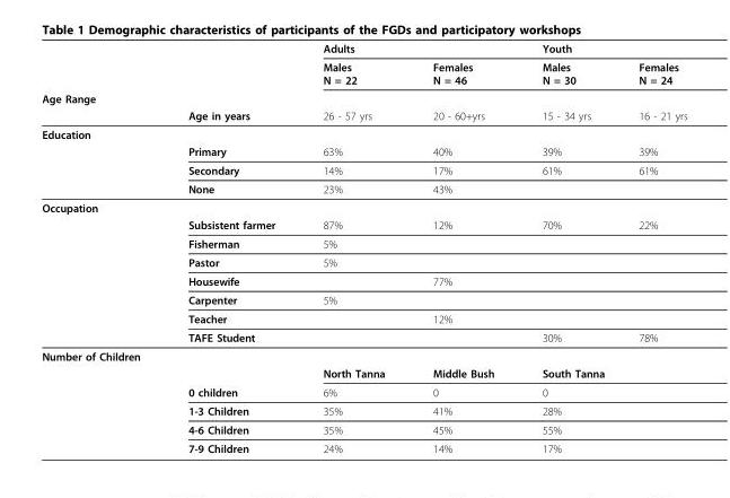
<table><thead><tr><td rowspan="4">Age Range</td><td rowspan="4">Age in years</td><td colspan="2">Adults</td><td colspan="2">Youth</td></tr><tr><td rowspan="3">Males N = 22 26 - 57 yrs</td><td rowspan="3">Females N = 46 20 - 60+yrs</td><td rowspan="3">Males N = 30 15 - 34 yrs</td><td rowspan="3">Females N = 24 16 - 21 yrs</td></tr><tr></tr><tr></tr></thead><tbody><tr><td colspan="6">Education</td></tr><tr><td></td><td>Primary</td><td>63%</td><td>40%</td><td>39%</td><td>39%</td></tr><tr><td></td><td>Secondary</td><td>14%</td><td>17%</td><td>61%</td><td>61%</td></tr><tr><td></td><td>None</td><td>23%</td><td>43%</td><td></td><td></td></tr><tr><td colspan="6">Occupation</td></tr><tr><td></td><td>Subsistent farmer</td><td>87%</td><td>12%</td><td>70%</td><td>22%</td></tr><tr><td></td><td>Fisherman</td><td>5%</td><td></td><td></td><td></td></tr><tr><td></td><td>Pastor</td><td>5%</td><td></td><td></td><td></td></tr><tr><td></td><td>Housewife</td><td></td><td>77%</td><td></td><td></td></tr><tr><td></td><td>Carpenter</td><td>5%</td><td></td><td></td><td></td></tr><tr><td></td><td>Teacher</td><td></td><td>12%</td><td></td><td></td></tr><tr><td></td><td>TAFE Student</td><td></td><td></td><td>30%</td><td>78%</td></tr><tr><td colspan="6">Number of Children</td></tr><tr><td></td><td></td><td>North Tanna</td><td>Middle Bush</td><td colspan="2">South Tanna</td></tr><tr><td></td><td>0 children</td><td>6%</td><td>0</td><td colspan="2">0</td></tr><tr><td></td><td>1-3 Children</td><td>35%</td><td>41%</td><td colspan="2">28%</td></tr><tr><td></td><td>4-6 Children</td><td>35%</td><td>45%</td><td colspan="2">55%</td></tr><tr><td></td><td>7-9 Children</td><td>24%</td><td>14%</td><td colspan="2">17%</td></tr></tbody></table>